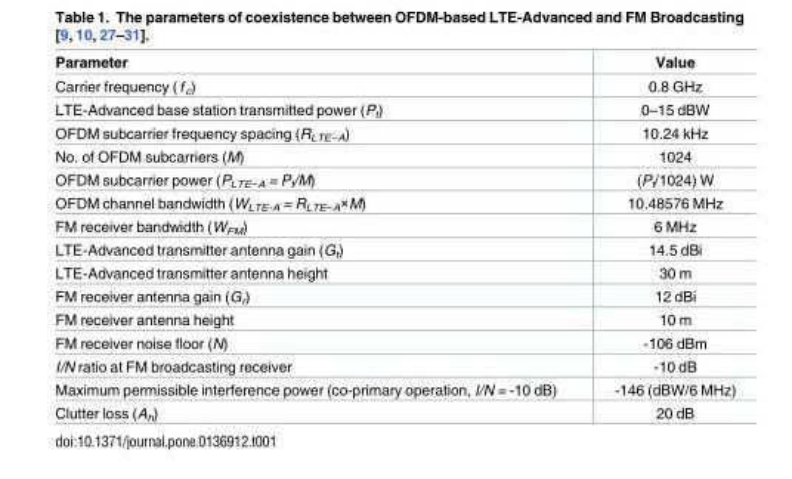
<table><thead><tr><td>Parameter</td><td>Value</td></tr></thead><tbody><tr><td>Carrier frequency (f <sub>c</sub>)</td><td>0.8 GHz</td></tr><tr><td>LTE-Advanced base station transmitted power (P<sub>t</sub>)</td><td>0–15 dBW</td></tr><tr><td>OFDM subcarrier frequency spacing (R<sub>LTE−A</sub>)</td><td>10.24 kHz</td></tr><tr><td>No. of OFDM subcarriers (M)</td><td>1024</td></tr><tr><td>OFDM subcarrier power (P<sub>LTE−A</sub> = P<sub>t</sub>/M)</td><td>(P<sub>t</sub>/1024) W</td></tr><tr><td>OFDM channel bandwidth (W<sub>LTE-A</sub> = R<sub>LTE−A</sub>×M)</td><td>10.48576 MHz</td></tr><tr><td>FM receiver bandwidth (W<sub>FM</sub>)</td><td>6 MHz</td></tr><tr><td>LTE-Advanced transmitter antenna gain (G<sub>t</sub>)</td><td>14.5 dBi</td></tr><tr><td>LTE-Advanced transmitter antenna height</td><td>30 m</td></tr><tr><td>FM receiver antenna gain (G<sub>r</sub>)</td><td>12 dBi</td></tr><tr><td>FM receiver antenna height</td><td>10 m</td></tr><tr><td>FM receiver noise floor (N)</td><td>-106 dBm</td></tr><tr><td>I/N ratio at FM broadcasting receiver</td><td>-10 dB</td></tr><tr><td>Maximum permissible interference power (co-primary operation, I/N = -10 dB)</td><td>-146 (dBW/6 MHz)</td></tr><tr><td>Clutter loss (A<sub>h</sub>)</td><td>20 dB</td></tr></tbody></table>